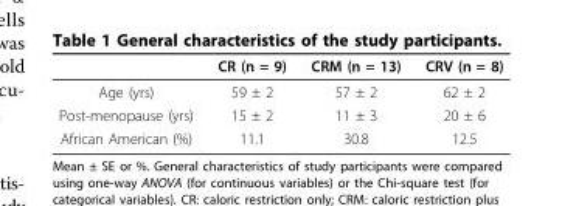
<table><thead><tr><td></td><td>CR (n = 9)</td><td>CRM (n = 13)</td><td>CRV (n = 8)</td></tr></thead><tbody><tr><td>Age (yrs)</td><td>59 ± 2</td><td>57 ± 2</td><td>62 ± 2</td></tr><tr><td>Post-menopause (yrs)</td><td>15 ± 2</td><td>11 ± 3</td><td>20 ± 6</td></tr><tr><td>African American (%)</td><td>11.1</td><td>30.8</td><td>12.5</td></tr></tbody></table>